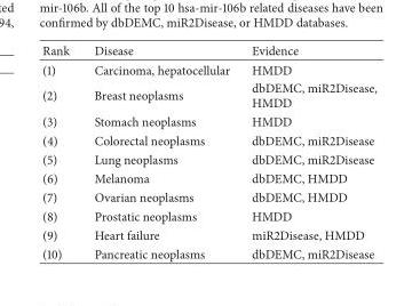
<table><thead><tr><td>Rank</td><td>Disease</td><td>Evidence</td></tr></thead><tbody><tr><td>(1)</td><td>Carcinoma, hepatocellular</td><td>HMDD</td></tr><tr><td>(2)</td><td>Breast neoplasms</td><td>dbDEMC, miR2Disease, HMDD</td></tr><tr><td>(3)</td><td>Stomach neoplasms</td><td>HMDD</td></tr><tr><td>(4)</td><td>Colorectal neoplasms</td><td>dbDEMC, miR2Disease</td></tr><tr><td>(5)</td><td>Lung neoplasms</td><td>dbDEMC, miR2Disease</td></tr><tr><td>(6)</td><td>Melanoma</td><td>dbDEMC, HMDD</td></tr><tr><td>(7)</td><td>Ovarian neoplasms</td><td>dbDEMC, HMDD</td></tr><tr><td>(8)</td><td>Prostatic neoplasms</td><td>HMDD</td></tr><tr><td>(9)</td><td>Heart failure</td><td>miR2Disease, HMDD</td></tr><tr><td>(10)</td><td>Pancreatic neoplasms</td><td>dbDEMC, miR2Disease</td></tr></tbody></table>